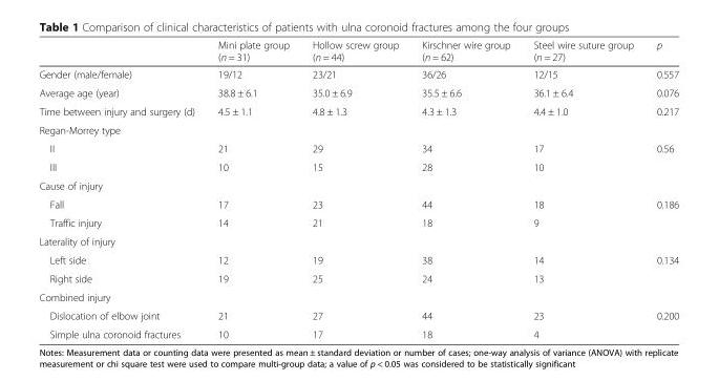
<table><thead><tr><td></td><td>Mini plate group (n = 31)</td><td>Hollow screw group (n = 44)</td><td>Kirschner wire group (n = 62)</td><td>Steel wire suture group (n = 27)</td><td>p</td></tr></thead><tbody><tr><td>Gender (male/female)</td><td>19/12</td><td>23/21</td><td>36/26</td><td>12/15</td><td>0.557</td></tr><tr><td>Average age (year)</td><td>38.8 ± 6.1</td><td>35.0 ± 6.9</td><td>35.5 ± 6.6</td><td>36.1 ± 6.4</td><td>0.076</td></tr><tr><td>Time between injury and surgery (d)</td><td>4.5 ± 1.1</td><td>4.8 ± 1.3</td><td>4.3 ± 1.3</td><td>4.4 ± 1.0</td><td>0.217</td></tr><tr><td colspan="6">Regan-Morrey type</td></tr><tr><td>II</td><td>21</td><td>29</td><td>34</td><td>17</td><td>0.56</td></tr><tr><td>III</td><td>10</td><td>15</td><td>28</td><td>10</td><td></td></tr><tr><td colspan="6">Cause of injury</td></tr><tr><td>Fall</td><td>17</td><td>23</td><td>44</td><td>18</td><td>0.186</td></tr><tr><td>Traffic injury</td><td>14</td><td>21</td><td>18</td><td>9</td><td></td></tr><tr><td colspan="6">Laterality of injury</td></tr><tr><td>Left side</td><td>12</td><td>19</td><td>38</td><td>14</td><td>0.134</td></tr><tr><td>Right side</td><td>19</td><td>25</td><td>24</td><td>13</td><td></td></tr><tr><td colspan="6">Combined injury</td></tr><tr><td>Dislocation of elbow joint</td><td>21</td><td>27</td><td>44</td><td>23</td><td>0.200</td></tr><tr><td>Simple ulna coronoid fractures</td><td>10</td><td>17</td><td>18</td><td>4</td><td></td></tr></tbody></table>